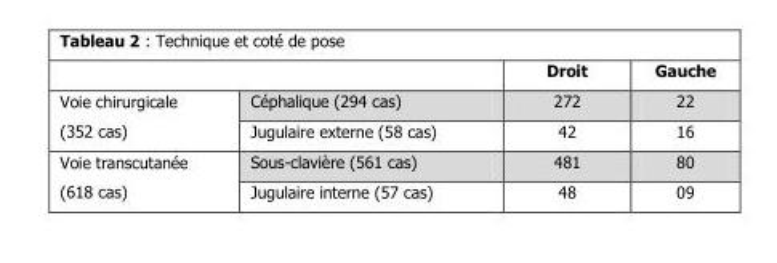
<table><thead><tr><td></td><td></td><td>Droit</td><td>Gauche</td></tr></thead><tbody><tr><td rowspan="2">Voie chirurgicale (352 cas)</td><td>Céphalique (294 cas)</td><td>272</td><td>22</td></tr><tr><td>Jugulaire externe (58 cas)</td><td>42</td><td>16</td></tr><tr><td rowspan="2">Voie transcutanée (618 cas)</td><td>Sous-clavière (561 cas)</td><td>481</td><td>80</td></tr><tr><td>Jugulaire interne (57 cas)</td><td>48</td><td>09</td></tr></tbody></table>